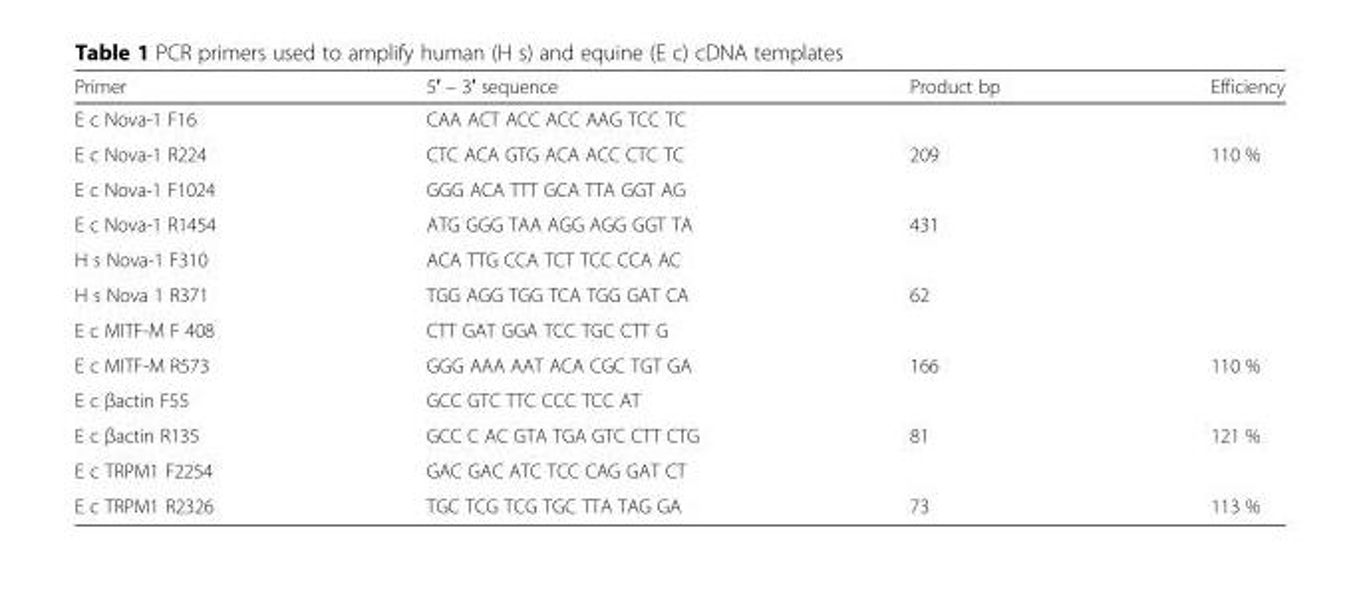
<table><thead><tr><td>Primer</td><td>5′ – 3′ sequence</td><td>Product bp</td><td>Efficiency</td></tr></thead><tbody><tr><td>E c Nova-1 F16</td><td>CAA ACT ACC ACC AAG TCC TC</td><td></td><td></td></tr><tr><td>E c Nova-1 R224</td><td>CTC ACA GTG ACA ACC CTC TC</td><td>209</td><td>110 %</td></tr><tr><td>E c Nova-1 F1024</td><td>GGG ACA TTT GCA TTA GGT AG</td><td></td><td></td></tr><tr><td>E c Nova-1 R1454</td><td>ATG GGG TAA AGG AGG GGT TA</td><td>431</td><td></td></tr><tr><td>H s Nova-1 F310</td><td>ACA TTG CCA TCT TCC CCA AC</td><td></td><td></td></tr><tr><td>H s Nova 1 R371</td><td>TGG AGG TGG TCA TGG GAT CA</td><td>62</td><td></td></tr><tr><td>E c MITF-M F 408</td><td>CTT GAT GGA TCC TGC CTT G</td><td></td><td></td></tr><tr><td>E c MITF-M R573</td><td>GGG AAA AAT ACA CGC TGT GA</td><td>166</td><td>110 %</td></tr><tr><td>E c βactin F55</td><td>GCC GTC TTC CCC TCC AT</td><td></td><td></td></tr><tr><td>E c βactin R135</td><td>GCC C AC GTA TGA GTC CTT CTG</td><td>81</td><td>121 %</td></tr><tr><td>E c TRPM1 F2254</td><td>GAC GAC ATC TCC CAG GAT CT</td><td></td><td></td></tr><tr><td>E c TRPM1 R2326</td><td>TGC TCG TCG TGC TTA TAG GA</td><td>73</td><td>113 %</td></tr></tbody></table>